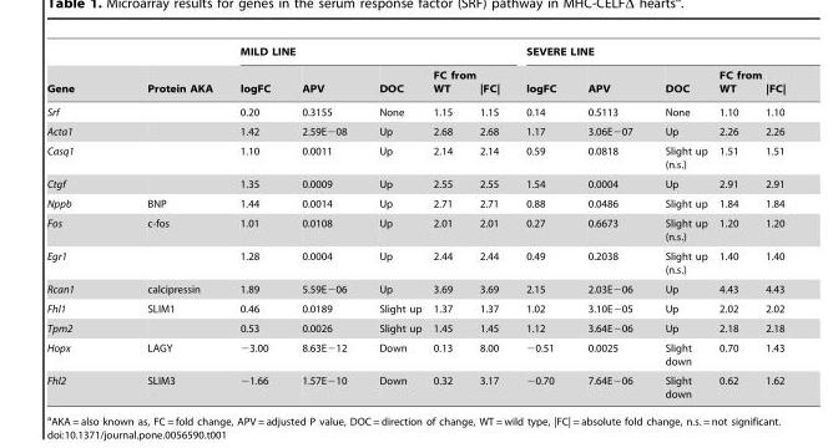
<table><thead><tr><td rowspan="2">Gene</td><td rowspan="2">Protein AKA</td><td colspan="5">MILD LINE</td><td colspan="5">SEVERE LINE</td></tr><tr><td>logFC</td><td>APV</td><td>DOC</td><td>FC from WT</td><td>|FC|</td><td>logFC</td><td>APV</td><td>DOC</td><td>FC from WT</td><td>|FC|</td></tr></thead><tbody><tr><td>Srf</td><td></td><td>0.20</td><td>0.3155</td><td>None</td><td>1.15</td><td>1.15</td><td>0.14</td><td>0.5113</td><td>None</td><td>1.10</td><td>1.10</td></tr><tr><td>Acta1</td><td></td><td>1.42</td><td>2.59E−08</td><td>Up</td><td>2.68</td><td>2.68</td><td>1.17</td><td>3.06E−07</td><td>Up</td><td>2.26</td><td>2.26</td></tr><tr><td>Casq1</td><td></td><td>1.10</td><td>0.0011</td><td>Up</td><td>2.14</td><td>2.14</td><td>0.59</td><td>0.0818</td><td>Slight up (n.s.)</td><td>1.51</td><td>1.51</td></tr><tr><td>Ctgf</td><td></td><td>1.35</td><td>0.0009</td><td>Up</td><td>2.55</td><td>2.55</td><td>1.54</td><td>0.0004</td><td>Up</td><td>2.91</td><td>2.91</td></tr><tr><td>Nppb</td><td>BNP</td><td>1.44</td><td>0.0014</td><td>Up</td><td>2.71</td><td>2.71</td><td>0.88</td><td>0.0486</td><td>Slight up</td><td>1.84</td><td>1.84</td></tr><tr><td>Fos</td><td>c-fos</td><td>1.01</td><td>0.0108</td><td>Up</td><td>2.01</td><td>2.01</td><td>0.27</td><td>0.6673</td><td>Slight up (n.s.)</td><td>1.20</td><td>1.20</td></tr><tr><td>Egr1</td><td></td><td>1.28</td><td>0.0004</td><td>Up</td><td>2.44</td><td>2.44</td><td>0.49</td><td>0.2038</td><td>Slight up (n.s.)</td><td>1.40</td><td>1.40</td></tr><tr><td>Rcan1</td><td>calcipressin</td><td>1.89</td><td>5.59E−06</td><td>Up</td><td>3.69</td><td>3.69</td><td>2.15</td><td>2.03E−06</td><td>Up</td><td>4.43</td><td>4.43</td></tr><tr><td>Fhl1</td><td>SLIM1</td><td>0.46</td><td>0.0189</td><td>Slight up</td><td>1.37</td><td>1.37</td><td>1.02</td><td>3.10E−05</td><td>Up</td><td>2.02</td><td>2.02</td></tr><tr><td>Tpm2</td><td></td><td>0.53</td><td>0.0026</td><td>Slight up</td><td>1.45</td><td>1.45</td><td>1.12</td><td>3.64E−06</td><td>Up</td><td>2.18</td><td>2.18</td></tr><tr><td>Hopx</td><td>LAGY</td><td>−3.00</td><td>8.63E−12</td><td>Down</td><td>0.13</td><td>8.00</td><td>−0.51</td><td>0.0025</td><td>Slight down</td><td>0.70</td><td>1.43</td></tr><tr><td>Fhl2</td><td>SLIM3</td><td>−1.66</td><td>1.57E−10</td><td>Down</td><td>0.32</td><td>3.17</td><td>−0.70</td><td>7.64E−06</td><td>Slight down</td><td>0.62</td><td>1.62</td></tr></tbody></table>